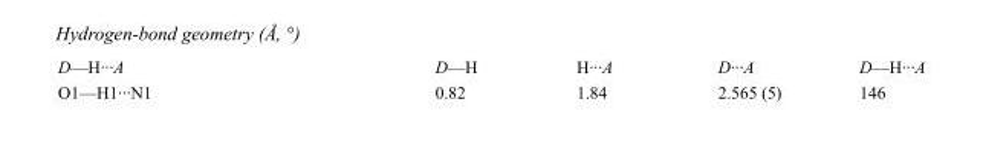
<table><tbody><tr><td>D—H···A</td><td>D—H</td><td>H···A</td><td>D···A</td><td>D—H···A</td></tr><tr><td>O1—H1···N1</td><td>0.82</td><td>1.84</td><td>2.565 (5)</td><td>146</td></tr></tbody></table>